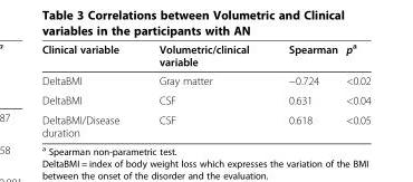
<table><thead><tr><td>Clinical variable</td><td>Volumetric/clinical variable</td><td>Spearman</td><td>p<sup>a</sup></td></tr></thead><tbody><tr><td>DeltaBMI</td><td>Gray matter</td><td>−0.724</td><td>&lt;0.02</td></tr><tr><td>DeltaBMI</td><td>CSF</td><td>0.631</td><td>&lt;0.04</td></tr><tr><td>DeltaBMI/Disease duration</td><td>CSF</td><td>0.618</td><td>&lt;0.05</td></tr></tbody></table>